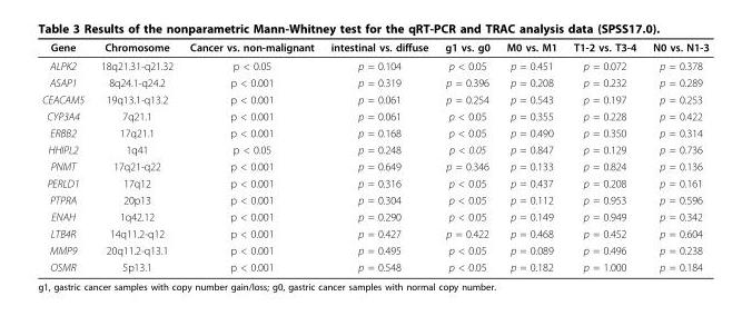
<table><thead><tr><td>Gene</td><td>Chromosome</td><td>Cancer vs. non-malignant</td><td>intestinal vs. diffuse</td><td>g1 vs. g0</td><td>M0 vs. M1</td><td>T1-2 vs. T3-4</td><td>N0 vs. N1-3</td></tr></thead><tbody><tr><td>ALPK2</td><td>18q21.31-q21.32</td><td>p &lt; 0.05</td><td>p = 0.104</td><td>p &lt; 0.05</td><td>p = 0.451</td><td>p = 0.072</td><td>p = 0.378</td></tr><tr><td>ASAP1</td><td>8q24.1-q24.2</td><td>p &lt; 0.001</td><td>p = 0.319</td><td>p = 0.396</td><td>p = 0.208</td><td>p = 0.232</td><td>p = 0.289</td></tr><tr><td>CEACAM5</td><td>19q13.1-q13.2</td><td>p &lt; 0.001</td><td>p = 0.061</td><td>p = 0.254</td><td>p = 0.543</td><td>p = 0.197</td><td>p = 0.253</td></tr><tr><td>CYP3A4</td><td>7q21.1</td><td>p &lt; 0.001</td><td>p = 0.061</td><td>p &lt; 0.05</td><td>p = 0.355</td><td>p = 0.228</td><td>p = 0.422</td></tr><tr><td>ERBB2</td><td>17q21.1</td><td>p &lt; 0.001</td><td>p = 0.168</td><td>p &lt; 0.05</td><td>p = 0.490</td><td>p = 0.350</td><td>p = 0.314</td></tr><tr><td>HHIPL2</td><td>1q41</td><td>p &lt; 0.05</td><td>p = 0.248</td><td>p &lt; 0.05</td><td>p = 0.847</td><td>p = 0.129</td><td>p = 0.736</td></tr><tr><td>PNMT</td><td>17q21-q22</td><td>p &lt; 0.001</td><td>p = 0.649</td><td>p = 0.346</td><td>p = 0.133</td><td>p = 0.824</td><td>p = 0.136</td></tr><tr><td>PERLD1</td><td>17q12</td><td>p &lt; 0.001</td><td>p = 0.316</td><td>p &lt; 0.05</td><td>p = 0.437</td><td>p = 0.208</td><td>p = 0.161</td></tr><tr><td>PTPRA</td><td>20p13</td><td>p &lt; 0.001</td><td>p = 0.304</td><td>p &lt; 0.05</td><td>p = 0.112</td><td>p = 0.953</td><td>p = 0.596</td></tr><tr><td>ENAH</td><td>1q42.12</td><td>p &lt; 0.001</td><td>p = 0.290</td><td>p &lt; 0.05</td><td>p = 0.149</td><td>p = 0.949</td><td>p = 0.342</td></tr><tr><td>LTB4R</td><td>14q11.2-q12</td><td>p &lt; 0.001</td><td>p = 0.427</td><td>p = 0.422</td><td>p = 0.468</td><td>p = 0.452</td><td>p = 0.604</td></tr><tr><td>MMP9</td><td>20q11.2-q13.1</td><td>p &lt; 0.001</td><td>p = 0.495</td><td>p &lt; 0.05</td><td>p = 0.089</td><td>p = 0.496</td><td>p = 0.238</td></tr><tr><td>OSMR</td><td>5p13.1</td><td>p &lt; 0.001</td><td>p = 0.548</td><td>p &lt; 0.05</td><td>p = 0.182</td><td>p = 1.000</td><td>p = 0.184</td></tr></tbody></table>